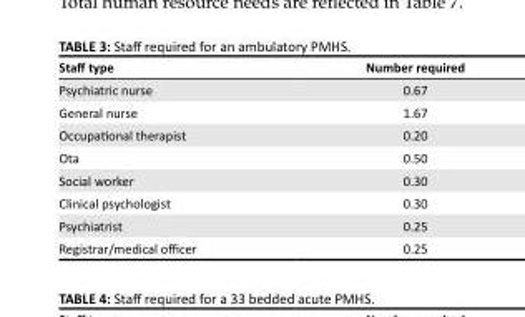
<table><thead><tr><td>Staff type</td><td>Number required</td></tr></thead><tbody><tr><td>Psychiatric nurse</td><td>0.67</td></tr><tr><td>General nurse</td><td>1.67</td></tr><tr><td>Occupational therapist</td><td>0.20</td></tr><tr><td>Ota</td><td>0.50</td></tr><tr><td>Social worker</td><td>0.30</td></tr><tr><td>Clinical psychologist</td><td>0.30</td></tr><tr><td>Psychiatrist</td><td>0.25</td></tr><tr><td>Registrar/medical officer</td><td>0.25</td></tr></tbody></table>